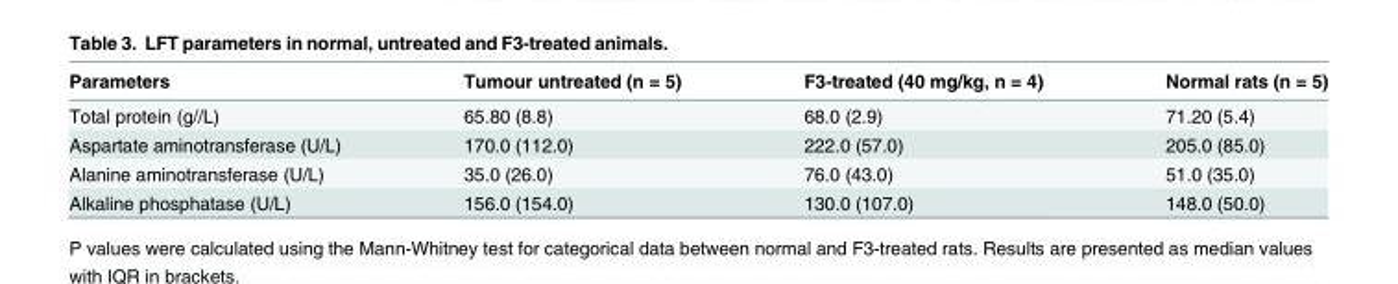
<table><thead><tr><td>Parameters</td><td>Tumour untreated (n = 5)</td><td>F3-treated (40 mg/kg, n = 4)</td><td>Normal rats (n = 5)</td></tr></thead><tbody><tr><td>Total protein (g//L)</td><td>65.80 (8.8)</td><td>68.0 (2.9)</td><td>71.20 (5.4)</td></tr><tr><td>Aspartate aminotransferase (U/L)</td><td>170.0 (112.0)</td><td>222.0 (57.0)</td><td>205.0 (85.0)</td></tr><tr><td>Alanine aminotransferase (U/L)</td><td>35.0 (26.0)</td><td>76.0 (43.0)</td><td>51.0 (35.0)</td></tr><tr><td>Alkaline phosphatase (U/L)</td><td>156.0 (154.0)</td><td>130.0 (107.0)</td><td>148.0 (50.0)</td></tr></tbody></table>